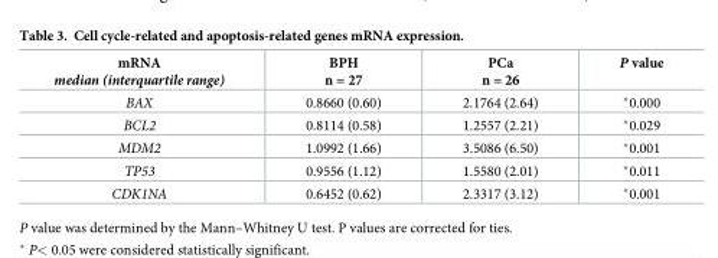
<table><thead><tr><td>mRNA median (interquartile range)</td><td>BPH n = 27</td><td>PCa n = 26</td><td>P value</td></tr></thead><tbody><tr><td>BAX</td><td>0.8660 (0.60)</td><td>2.1764 (2.64)</td><td>*0.000</td></tr><tr><td>BCL2</td><td>0.8114 (0.58)</td><td>1.2557 (2.21)</td><td>*0.029</td></tr><tr><td>MDM2</td><td>1.0992 (1.66)</td><td>3.5086 (6.50)</td><td>*0.001</td></tr><tr><td>TP53</td><td>0.9556 (1.12)</td><td>1.5580 (2.01)</td><td>*0.011</td></tr><tr><td>CDK1NA</td><td>0.6452 (0.62)</td><td>2.3317 (3.12)</td><td>*0.001</td></tr></tbody></table>